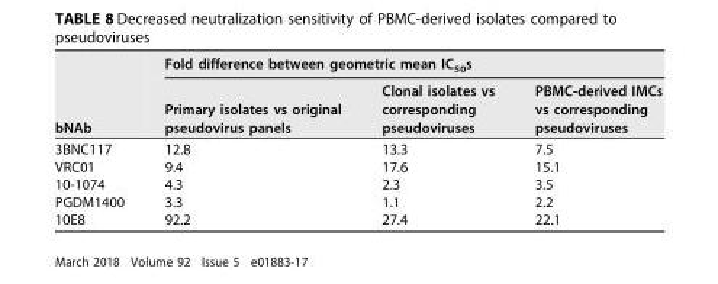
<table><thead><tr><td rowspan="2">bNAb</td><td colspan="3">Fold difference between geometric mean IC<sub>50</sub>s</td></tr><tr><td>Primary isolates vs original pseudovirus panels</td><td>Clonal isolates vs corresponding pseudoviruses</td><td>PBMC-derived IMCs vs corresponding pseudoviruses</td></tr></thead><tbody><tr><td>3BNC117</td><td>12.8</td><td>13.3</td><td>7.5</td></tr><tr><td>VRC01</td><td>9.4</td><td>17.6</td><td>15.1</td></tr><tr><td>10-1074</td><td>4.3</td><td>2.3</td><td>3.5</td></tr><tr><td>PGDM1400</td><td>3.3</td><td>1.1</td><td>2.2</td></tr><tr><td>10E8</td><td>92.2</td><td>27.4</td><td>22.1</td></tr></tbody></table>